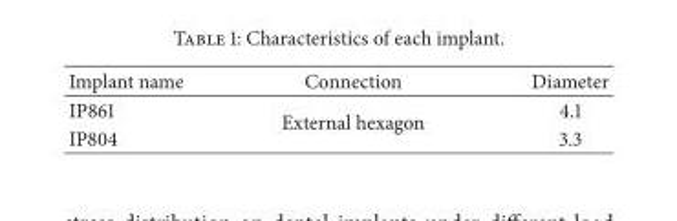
<table><thead><tr><td>Implant name</td><td>Connection</td><td>Diameter</td></tr></thead><tbody><tr><td>IP861</td><td rowspan="2">External hexagon</td><td>4.1</td></tr><tr><td>IP804</td><td>3.3</td></tr></tbody></table>